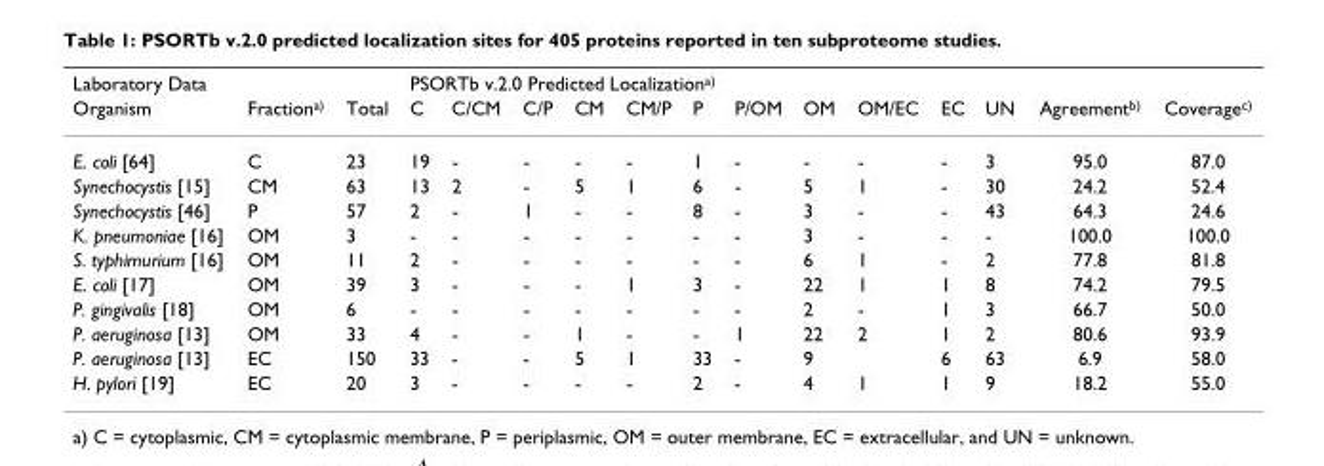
<table><thead><tr><td rowspan="2">Laboratory Data Organism</td><td rowspan="2">Fraction<sup>a)</sup></td><td rowspan="2">Total</td><td colspan="11">PSORTb v.2.0 Predicted Localization<sup>a)</sup></td><td rowspan="2">Agreement<sup>b)</sup></td><td rowspan="2">Coverage<sup>c)</sup></td></tr><tr><td>C</td><td>C/CM</td><td>C/P</td><td>CM</td><td>CM/P</td><td>P</td><td>P/OM</td><td>OM</td><td>OM/EC</td><td>EC</td><td>UN</td></tr></thead><tbody><tr><td>E. coli [64]</td><td>C</td><td>23</td><td>19</td><td>-</td><td>-</td><td>-</td><td>-</td><td>1</td><td>-</td><td>-</td><td>-</td><td>-</td><td>3</td><td>95.0</td><td>87.0</td></tr><tr><td>Synechocystis [15]</td><td>CM</td><td>63</td><td>13</td><td>2</td><td>-</td><td>5</td><td>1</td><td>6</td><td>-</td><td>5</td><td>1</td><td>-</td><td>30</td><td>24.2</td><td>52.4</td></tr><tr><td>Synechocystis [46]</td><td>P</td><td>57</td><td>2</td><td>-</td><td>1</td><td>-</td><td>-</td><td>8</td><td>-</td><td>3</td><td>-</td><td>-</td><td>43</td><td>64.3</td><td>24.6</td></tr><tr><td>K. pneumoniae [16]</td><td>OM</td><td>3</td><td>-</td><td>-</td><td>-</td><td>-</td><td>-</td><td>-</td><td>-</td><td>3</td><td>-</td><td>-</td><td>-</td><td>100.0</td><td>100.0</td></tr><tr><td>S. typhimurium [16]</td><td>OM</td><td>11</td><td>2</td><td>-</td><td>-</td><td>-</td><td>-</td><td>-</td><td>-</td><td>6</td><td>1</td><td>-</td><td>2</td><td>77.8</td><td>81.8</td></tr><tr><td>E. coli [17]</td><td>OM</td><td>39</td><td>3</td><td>-</td><td>-</td><td>-</td><td>1</td><td>3</td><td>-</td><td>22</td><td>1</td><td>1</td><td>8</td><td>74.2</td><td>79.5</td></tr><tr><td>P. gingivalis [18]</td><td>OM</td><td>6</td><td>-</td><td>-</td><td>-</td><td>-</td><td>-</td><td>-</td><td>-</td><td>2</td><td>-</td><td>1</td><td>3</td><td>66.7</td><td>50.0</td></tr><tr><td>P. aeruginosa [13]</td><td>OM</td><td>33</td><td>4</td><td>-</td><td>-</td><td>1</td><td>-</td><td>-</td><td>1</td><td>22</td><td>2</td><td>1</td><td>2</td><td>80.6</td><td>93.9</td></tr><tr><td>P. aeruginosa [13]</td><td>EC</td><td>150</td><td>33</td><td>-</td><td>-</td><td>5</td><td>1</td><td>33</td><td>-</td><td>9</td><td></td><td>6</td><td>63</td><td>6.9</td><td>58.0</td></tr><tr><td>H. pylori [19]</td><td>EC</td><td>20</td><td>3</td><td>-</td><td>-</td><td>-</td><td>-</td><td>2</td><td>-</td><td>4</td><td>1</td><td>1</td><td>9</td><td>18.2</td><td>55.0</td></tr></tbody></table>